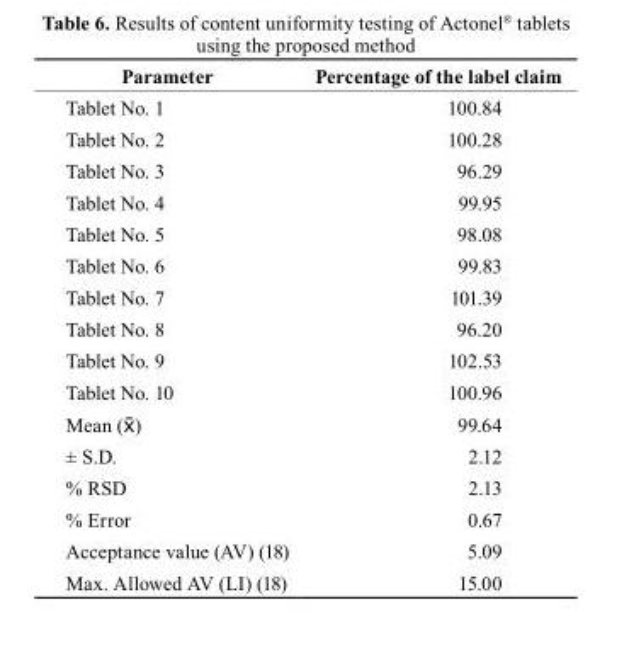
<table><thead><tr><td>Parameter</td><td>Percentage of the label claim</td></tr></thead><tbody><tr><td>Tablet No. 1</td><td>100.84</td></tr><tr><td>Tablet No. 2</td><td>100.28</td></tr><tr><td>Tablet No. 3</td><td>96.29</td></tr><tr><td>Tablet No. 4</td><td>99.95</td></tr><tr><td>Tablet No. 5</td><td>98.08</td></tr><tr><td>Tablet No. 6</td><td>99.83</td></tr><tr><td>Tablet No. 7</td><td>101.39</td></tr><tr><td>Tablet No. 8</td><td>96.20</td></tr><tr><td>Tablet No. 9</td><td>102.53</td></tr><tr><td>Tablet No. 10</td><td>100.96</td></tr><tr><td>Mean (x)</td><td>99.64</td></tr><tr><td>± S.D.</td><td>2.12</td></tr><tr><td>% RSD</td><td>2.13</td></tr><tr><td>% Error</td><td>0.67</td></tr><tr><td>Acceptance value (AV) (18)</td><td>5.09</td></tr><tr><td>Max. Allowed AV (LI) (18)</td><td>15.00</td></tr></tbody></table>